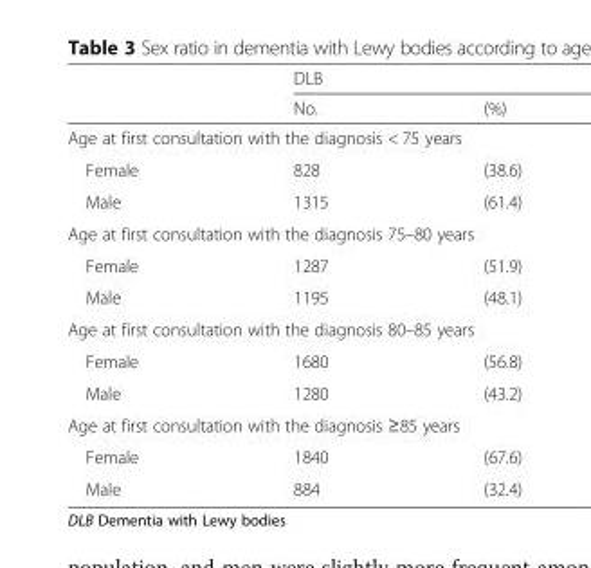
<table><thead><tr><td rowspan="2"></td><td colspan="2">DLB</td></tr><tr><td>No.</td><td>(%)</td></tr></thead><tbody><tr><td colspan="3">Age at first consultation with the diagnosis &lt; 75 years</td></tr><tr><td>Female</td><td>828</td><td>(38.6)</td></tr><tr><td>Male</td><td>1315</td><td>(61.4)</td></tr><tr><td colspan="3">Age at first consultation with the diagnosis 75–80 years</td></tr><tr><td>Female</td><td>1287</td><td>(51.9)</td></tr><tr><td>Male</td><td>1195</td><td>(48.1)</td></tr><tr><td colspan="3">Age at first consultation with the diagnosis 80–85 years</td></tr><tr><td>Female</td><td>1680</td><td>(56.8)</td></tr><tr><td>Male</td><td>1280</td><td>(43.2)</td></tr><tr><td colspan="3">Age at first consultation with the diagnosis ≥85 years</td></tr><tr><td>Female</td><td>1840</td><td>(67.6)</td></tr><tr><td>Male</td><td>884</td><td>(32.4)</td></tr></tbody></table>